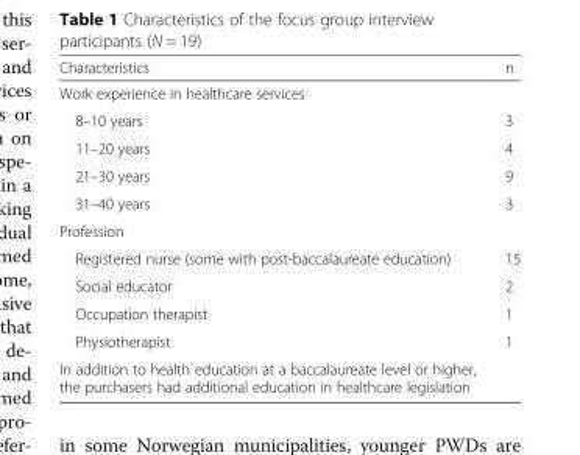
<table><thead><tr><td>Characteristics</td><td>n</td></tr></thead><tbody><tr><td colspan="2">Work experience in healthcare services</td></tr><tr><td>8–10 years</td><td>3</td></tr><tr><td>11–20 years</td><td>4</td></tr><tr><td>21–30 years</td><td>9</td></tr><tr><td>31–40 years</td><td>3</td></tr><tr><td colspan="2">Profession</td></tr><tr><td>Registered nurse (some with post-baccalaureate education)</td><td>15</td></tr><tr><td>Social educator</td><td>2</td></tr><tr><td>Occupation therapist</td><td>1</td></tr><tr><td>Physiotherapist</td><td>1</td></tr><tr><td colspan="2">In addition to health education at a baccalaureate level or higher, the purchasers had additional education in healthcare legislation</td></tr></tbody></table>